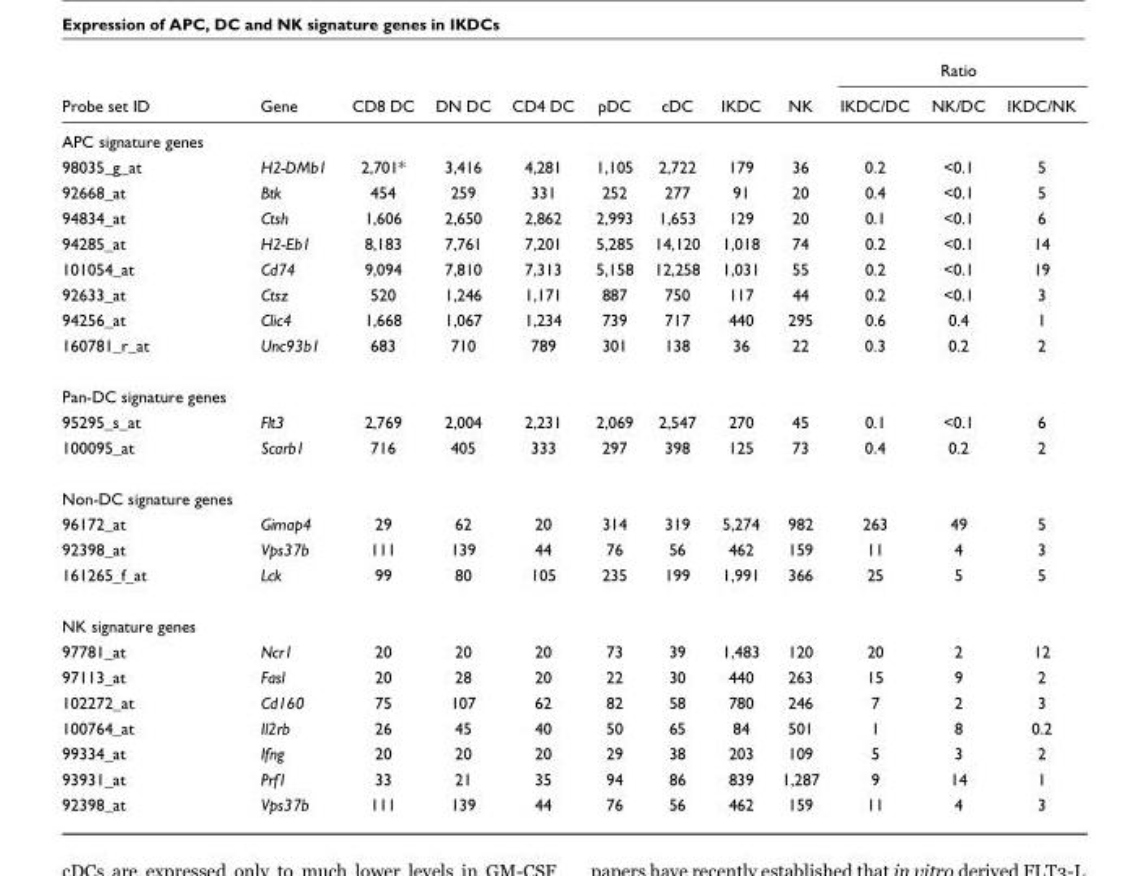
<table><thead><tr><td rowspan="2">Probe set ID</td><td rowspan="2">Gene</td><td rowspan="2">CD8 DC</td><td rowspan="2">DN DC</td><td rowspan="2">CD4 DC</td><td rowspan="2">pDC</td><td rowspan="2">cDC</td><td rowspan="2">IKDC</td><td rowspan="2">NK</td><td colspan="3">Ratio</td></tr><tr><td>IKDC/DC</td><td>NK/DC</td><td>IKDC/NK</td></tr></thead><tbody><tr><td colspan="12">APC signature genes</td></tr><tr><td>98035_g_at</td><td>H2-DMb1</td><td>2,701*</td><td>3,416</td><td>4,281</td><td>1,105</td><td>2,722</td><td>179</td><td>36</td><td>0.2</td><td>&lt;0.1</td><td>5</td></tr><tr><td>92668_at</td><td>Btk</td><td>454</td><td>259</td><td>331</td><td>252</td><td>277</td><td>91</td><td>20</td><td>0.4</td><td>&lt;0.1</td><td>5</td></tr><tr><td>94834_at</td><td>Ctsh</td><td>1,606</td><td>2,650</td><td>2,862</td><td>2,993</td><td>1,653</td><td>129</td><td>20</td><td>0.1</td><td>&lt;0.1</td><td>6</td></tr><tr><td>94285_at</td><td>H2-Eb1</td><td>8,183</td><td>7,761</td><td>7,201</td><td>5,285</td><td>14,120</td><td>1,018</td><td>74</td><td>0.2</td><td>&lt;0.1</td><td>14</td></tr><tr><td>101054_at</td><td>Cd74</td><td>9,094</td><td>7,810</td><td>7,313</td><td>5,158</td><td>12,258</td><td>1,031</td><td>55</td><td>0.2</td><td>&lt;0.1</td><td>19</td></tr><tr><td>92633_at</td><td>Ctsz</td><td>520</td><td>1,246</td><td>1,171</td><td>887</td><td>750</td><td>117</td><td>44</td><td>0.2</td><td>&lt;0.1</td><td>3</td></tr><tr><td>94256_at</td><td>Clic4</td><td>1,668</td><td>1,067</td><td>1,234</td><td>739</td><td>717</td><td>440</td><td>295</td><td>0.6</td><td>0.4</td><td>1</td></tr><tr><td>160781_r_at</td><td>Unc93b1</td><td>683</td><td>710</td><td>789</td><td>301</td><td>138</td><td>36</td><td>22</td><td>0.3</td><td>0.2</td><td>2</td></tr><tr><td colspan="12">Pan-DC signature genes</td></tr><tr><td>95295_s_at</td><td>Flt3</td><td>2,769</td><td>2,004</td><td>2,231</td><td>2,069</td><td>2,547</td><td>270</td><td>45</td><td>0.1</td><td>&lt;0.1</td><td>6</td></tr><tr><td>100095_at</td><td>Scarb1</td><td>716</td><td>405</td><td>333</td><td>297</td><td>398</td><td>125</td><td>73</td><td>0.4</td><td>0.2</td><td>2</td></tr><tr><td colspan="12">Non-DC signature genes</td></tr><tr><td>96172_at</td><td>Gimap4</td><td>29</td><td>62</td><td>20</td><td>314</td><td>319</td><td>5,274</td><td>982</td><td>263</td><td>49</td><td>5</td></tr><tr><td>92398_at</td><td>Vps37b</td><td>111</td><td>139</td><td>44</td><td>76</td><td>56</td><td>462</td><td>159</td><td>11</td><td>4</td><td>3</td></tr><tr><td>161265_f_at</td><td>Lck</td><td>99</td><td>80</td><td>105</td><td>235</td><td>199</td><td>1,991</td><td>366</td><td>25</td><td>5</td><td>5</td></tr><tr><td colspan="12">NK signature genes</td></tr><tr><td>97781_at</td><td>Ncr1</td><td>20</td><td>20</td><td>20</td><td>73</td><td>39</td><td>1,483</td><td>120</td><td>20</td><td>2</td><td>12</td></tr><tr><td>97113_at</td><td>Fasl</td><td>20</td><td>28</td><td>20</td><td>22</td><td>30</td><td>440</td><td>263</td><td>15</td><td>9</td><td>2</td></tr><tr><td>102272_at</td><td>Cd160</td><td>75</td><td>107</td><td>62</td><td>82</td><td>58</td><td>780</td><td>246</td><td>7</td><td>2</td><td>3</td></tr><tr><td>100764_at</td><td>Il2rb</td><td>26</td><td>45</td><td>40</td><td>50</td><td>65</td><td>84</td><td>501</td><td>1</td><td>8</td><td>0.2</td></tr><tr><td>99334_at</td><td>Ifng</td><td>20</td><td>20</td><td>20</td><td>29</td><td>38</td><td>203</td><td>109</td><td>5</td><td>3</td><td>2</td></tr><tr><td>93931_at</td><td>Prf1</td><td>33</td><td>21</td><td>35</td><td>94</td><td>86</td><td>839</td><td>1,287</td><td>9</td><td>14</td><td>1</td></tr><tr><td>92398_at</td><td>Vps37b</td><td>111</td><td>139</td><td>44</td><td>76</td><td>56</td><td>462</td><td>159</td><td>11</td><td>4</td><td>3</td></tr></tbody></table>